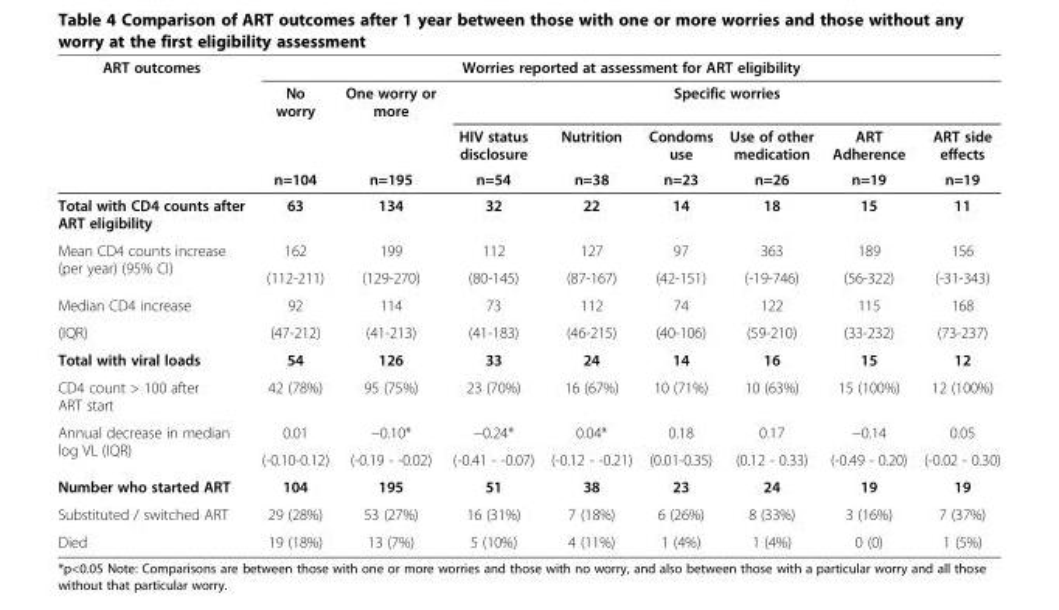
<table><thead><tr><td rowspan="4">ART outcomes</td><td colspan="8">Worries reported at assessment for ART eligibility</td></tr><tr><td rowspan="3">No worry n=104</td><td rowspan="3">One worry or more n=195</td><td colspan="6">Specific worries</td></tr><tr><td rowspan="2">HIV status disclosure n=54</td><td rowspan="2">Nutrition n=38</td><td rowspan="2">Condoms use n=23</td><td rowspan="2">Use of other medication n=26</td><td rowspan="2">ART Adherence n=19</td><td rowspan="2">ART side effects n=19</td></tr><tr></tr></thead><tbody><tr><td>Total with CD4 counts after ART eligibility</td><td>63</td><td>134</td><td>32</td><td>22</td><td>14</td><td>18</td><td>15</td><td>11</td></tr><tr><td rowspan="2">Mean CD4 counts increase (per year) (95% CI)</td><td>162</td><td>199</td><td>112</td><td>127</td><td>97</td><td>363</td><td>189</td><td>156</td></tr><tr><td>(112-211)</td><td>(129-270)</td><td>(80-145)</td><td>(87-167)</td><td>(42-151)</td><td>(-19-746)</td><td>(56-322)</td><td>(-31-343)</td></tr><tr><td>Median CD4 increase</td><td>92</td><td>114</td><td>73</td><td>112</td><td>74</td><td>122</td><td>115</td><td>168</td></tr><tr><td>(IQR)</td><td>(47-212)</td><td>(41-213)</td><td>(41-183)</td><td>(46-215)</td><td>(40-106)</td><td>(59-210)</td><td>(33-232)</td><td>(73-237)</td></tr><tr><td>Total with viral loads</td><td>54</td><td>126</td><td>33</td><td>24</td><td>14</td><td>16</td><td>15</td><td>12</td></tr><tr><td>CD4 count &gt; 100 after ART start</td><td>42 (78%)</td><td>95 (75%)</td><td>23 (70%)</td><td>16 (67%)</td><td>10 (71%)</td><td>10 (63%)</td><td>15 (100%)</td><td>12 (100%)</td></tr><tr><td rowspan="2">Annual decrease in median log VL (IQR)</td><td>0.01</td><td>−0.10*</td><td>−0.24*</td><td>0.04*</td><td>0.18</td><td>0.17</td><td>−0.14</td><td>0.05</td></tr><tr><td>(-0.10-0.12)</td><td>(-0.19 - -0.02)</td><td>(-0.41 - -0.07)</td><td>(-0.12 - -0.21)</td><td>(0.01-0.35)</td><td>(0.12 - 0.33)</td><td>(-0.49 - 0.20)</td><td>(-0.02 - 0.30)</td></tr><tr><td>Number who started ART</td><td>104</td><td>195</td><td>51</td><td>38</td><td>23</td><td>24</td><td>19</td><td>19</td></tr><tr><td>Substituted / switched ART</td><td>29 (28%)</td><td>53 (27%)</td><td>16 (31%)</td><td>7 (18%)</td><td>6 (26%)</td><td>8 (33%)</td><td>3 (16%)</td><td>7 (37%)</td></tr><tr><td>Died</td><td>19 (18%)</td><td>13 (7%)</td><td>5 (10%)</td><td>4 (11%)</td><td>1 (4%)</td><td>1 (4%)</td><td>0 (0)</td><td>1 (5%)</td></tr></tbody></table>